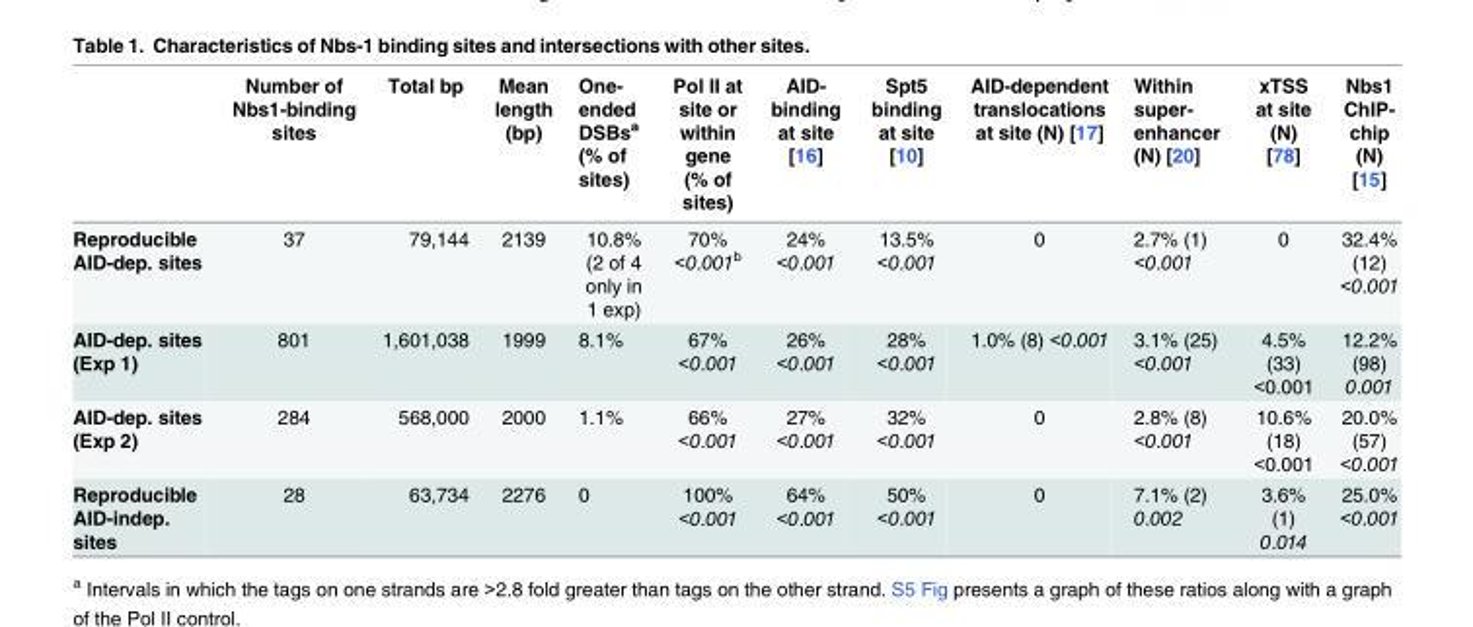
<table><thead><tr><td></td><td>Number of Nbs1-binding sites</td><td>Total bp</td><td>Mean length (bp)</td><td>One- ended DSBs<sup>a</sup> (% of sites)</td><td>Pol II at site or within gene (% of sites)</td><td>AID- binding at site [16]</td><td>Spt5 binding at site [10]</td><td>AID-dependent translocations at site (N) [17]</td><td>Within super- enhancer (N) [20]</td><td>xTSS at site (N) [78]</td><td>Nbs1 ChIP- chip (N) [15]</td></tr></thead><tbody><tr><td>Reproducible AID-dep. sites</td><td>37</td><td>79,144</td><td>2139</td><td>10.8% (2 of 4 only in 1 exp)</td><td>70% &lt;0.001<sup>b</sup></td><td>24% &lt;0.001</td><td>13.5% &lt;0.001</td><td>0</td><td>2.7% (1) &lt;0.001</td><td>0</td><td>32.4% (12) &lt;0.001</td></tr><tr><td>AID-dep. sites (Exp 1)</td><td>801</td><td>1,601,038</td><td>1999</td><td>8.1%</td><td>67% &lt;0.001</td><td>26% &lt;0.001</td><td>28% &lt;0.001</td><td>1.0% (8) &lt;0.001</td><td>3.1% (25) &lt;0.001</td><td>4.5% (33) &lt;0.001</td><td>12.2% (98) 0.001</td></tr><tr><td>AID-dep. sites (Exp 2)</td><td>284</td><td>568,000</td><td>2000</td><td>1.1%</td><td>66% &lt;0.001</td><td>27% &lt;0.001</td><td>32% &lt;0.001</td><td>0</td><td>2.8% (8) &lt;0.001</td><td>10.6% (18) &lt;0.001</td><td>20.0% (57) &lt;0.001</td></tr><tr><td>Reproducible AID-indep. sites</td><td>28</td><td>63,734</td><td>2276</td><td>0</td><td>100% &lt;0.001</td><td>64% &lt;0.001</td><td>50% &lt;0.001</td><td>0</td><td>7.1% (2) 0.002</td><td>3.6% (1) 0.014</td><td>25.0% &lt;0.001</td></tr></tbody></table>